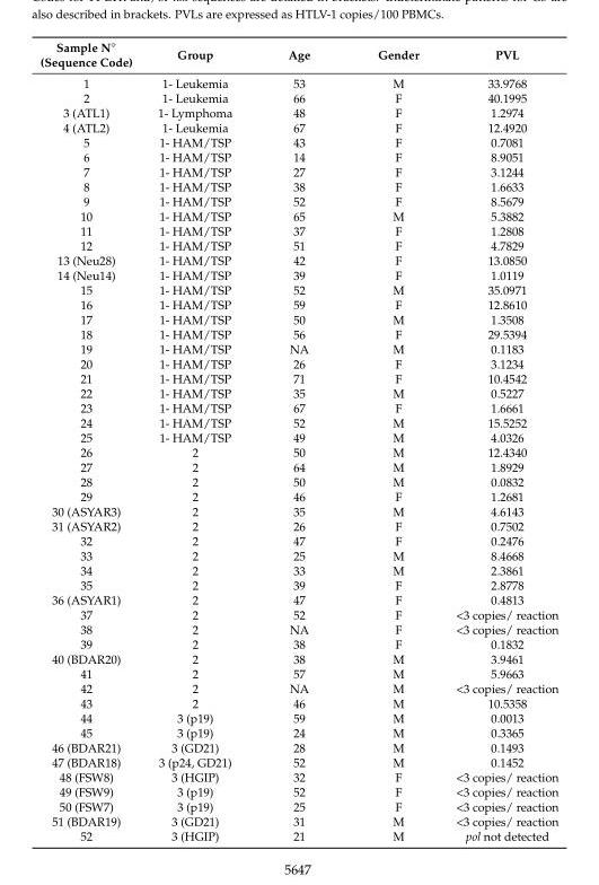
<table><thead><tr><td>Sample N° (Sequence Code)</td><td>Group</td><td>Age</td><td>Gender</td><td>PVL</td></tr></thead><tbody><tr><td>1</td><td>1- Leukemia</td><td>53</td><td>M</td><td>33.9768</td></tr><tr><td>2</td><td>1- Leukemia</td><td>66</td><td>F</td><td>40.1995</td></tr><tr><td>3 (ATL1)</td><td>1- Lymphoma</td><td>48</td><td>F</td><td>1.2974</td></tr><tr><td>4 (ATL2)</td><td>1- Leukemia</td><td>67</td><td>F</td><td>12.4920</td></tr><tr><td>5</td><td>1- HAM/TSP</td><td>43</td><td>F</td><td>0.7081</td></tr><tr><td>6</td><td>1- HAM/TSP</td><td>14</td><td>F</td><td>8.9051</td></tr><tr><td>7</td><td>1- HAM/TSP</td><td>27</td><td>F</td><td>3.1244</td></tr><tr><td>8</td><td>1- HAM/TSP</td><td>38</td><td>F</td><td>1.6633</td></tr><tr><td>9</td><td>1- HAM/TSP</td><td>52</td><td>F</td><td>8.5679</td></tr><tr><td>10</td><td>1- HAM/TSP</td><td>65</td><td>M</td><td>5.3882</td></tr><tr><td>11</td><td>1- HAM/TSP</td><td>37</td><td>F</td><td>1.2808</td></tr><tr><td>12</td><td>1- HAM/TSP</td><td>51</td><td>F</td><td>4.7829</td></tr><tr><td>13 (Neu28)</td><td>1- HAM/TSP</td><td>42</td><td>F</td><td>13.0850</td></tr><tr><td>14 (Neu14)</td><td>1- HAM/TSP</td><td>39</td><td>F</td><td>1.0119</td></tr><tr><td>15</td><td>1- HAM/TSP</td><td>52</td><td>M</td><td>35.0971</td></tr><tr><td>16</td><td>1- HAM/TSP</td><td>59</td><td>F</td><td>12.8610</td></tr><tr><td>17</td><td>1- HAM/TSP</td><td>50</td><td>M</td><td>1.3508</td></tr><tr><td>18</td><td>1- HAM/TSP</td><td>56</td><td>F</td><td>29.5394</td></tr><tr><td>19</td><td>1- HAM/TSP</td><td>NA</td><td>M</td><td>0.1183</td></tr><tr><td>20</td><td>1- HAM/TSP</td><td>26</td><td>F</td><td>3.1234</td></tr><tr><td>21</td><td>1- HAM/TSP</td><td>71</td><td>F</td><td>10.4542</td></tr><tr><td>22</td><td>1- HAM/TSP</td><td>35</td><td>M</td><td>0.5227</td></tr><tr><td>23</td><td>1- HAM/TSP</td><td>67</td><td>F</td><td>1.6661</td></tr><tr><td>24</td><td>1- HAM/TSP</td><td>52</td><td>M</td><td>15.5252</td></tr><tr><td>25</td><td>1- HAM/TSP</td><td>49</td><td>M</td><td>4.0326</td></tr><tr><td>26</td><td>2</td><td>50</td><td>M</td><td>12.4340</td></tr><tr><td>27</td><td>2</td><td>64</td><td>M</td><td>1.8929</td></tr><tr><td>28</td><td>2</td><td>50</td><td>M</td><td>0.0832</td></tr><tr><td>29</td><td>2</td><td>46</td><td>F</td><td>1.2681</td></tr><tr><td>30 (ASYAR3)</td><td>2</td><td>35</td><td>M</td><td>4.6143</td></tr><tr><td>31 (ASYAR2)</td><td>2</td><td>26</td><td>F</td><td>0.7502</td></tr><tr><td>32</td><td>2</td><td>47</td><td>F</td><td>0.2476</td></tr><tr><td>33</td><td>2</td><td>25</td><td>M</td><td>8.4668</td></tr><tr><td>34</td><td>2</td><td>33</td><td>M</td><td>2.3861</td></tr><tr><td>35</td><td>2</td><td>39</td><td>F</td><td>2.8778</td></tr><tr><td>36 (ASYAR1)</td><td>2</td><td>47</td><td>F</td><td>0.4813</td></tr><tr><td>37</td><td>2</td><td>52</td><td>F</td><td>&lt;3 copies/ reaction</td></tr><tr><td>38</td><td>2</td><td>NA</td><td>F</td><td>&lt;3 copies/ reaction</td></tr><tr><td>39</td><td>2</td><td>38</td><td>F</td><td>0.1832</td></tr><tr><td>40 (BDAR20)</td><td>2</td><td>38</td><td>M</td><td>3.9461</td></tr><tr><td>41</td><td>2</td><td>57</td><td>M</td><td>5.9663</td></tr><tr><td>42</td><td>2</td><td>NA</td><td>M</td><td>&lt;3 copies/ reaction</td></tr><tr><td>43</td><td>2</td><td>46</td><td>M</td><td>10.5358</td></tr><tr><td>44</td><td>3 (p19)</td><td>59</td><td>M</td><td>0.0013</td></tr><tr><td>45</td><td>3 (p19)</td><td>24</td><td>M</td><td>0.3365</td></tr><tr><td>46 (BDAR21)</td><td>3 (GD21)</td><td>28</td><td>M</td><td>0.1493</td></tr><tr><td>47 (BDAR18)</td><td>3 (p24, GD21)</td><td>52</td><td>M</td><td>0.1452</td></tr><tr><td>48 (FSW8)</td><td>3 (HGIP)</td><td>32</td><td>F</td><td>&lt;3 copies/ reaction</td></tr><tr><td>49 (FSW9)</td><td>3 (p19)</td><td>52</td><td>F</td><td>&lt;3 copies/ reaction</td></tr><tr><td>50 (FSW7)</td><td>3 (p19)</td><td>25</td><td>F</td><td>&lt;3 copies/ reaction</td></tr><tr><td>51 (BDAR19)</td><td>3 (GD21)</td><td>31</td><td>M</td><td>&lt;3 copies/ reaction</td></tr><tr><td>52</td><td>3 (HGIP)</td><td>21</td><td>M</td><td>pol not detected</td></tr></tbody></table>